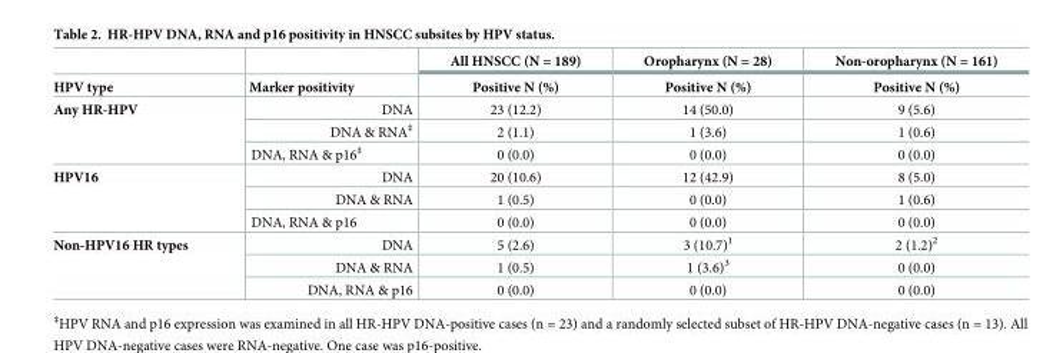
<table><thead><tr><td rowspan="2">HPV type</td><td rowspan="2">Marker positivity</td><td rowspan="2">All HNSCC (N = 189) Positive N (%)</td><td rowspan="2">Oropharynx (N = 28) Positive N (%)</td><td rowspan="2">Non-oropharynx (N = 161) Positive N (%)</td></tr><tr></tr></thead><tbody><tr><td rowspan="3">Any HR-HPV</td><td>DNA</td><td>23 (12.2)</td><td>14 (50.0)</td><td>9 (5.6)</td></tr><tr><td>DNA &amp; RNA<sup>‡</sup></td><td>2 (1.1)</td><td>1 (3.6)</td><td>1 (0.6)</td></tr><tr><td>DNA, RNA &amp; p16<sup>‡</sup></td><td>0 (0.0)</td><td>0 (0.0)</td><td>0 (0.0)</td></tr><tr><td rowspan="3">HPV16</td><td>DNA</td><td>20 (10.6)</td><td>12 (42.9)</td><td>8 (5.0)</td></tr><tr><td>DNA &amp; RNA</td><td>1 (0.5)</td><td>0 (0.0)</td><td>1 (0.6)</td></tr><tr><td>DNA, RNA &amp; p16</td><td>0 (0.0)</td><td>0 (0.0)</td><td>0 (0.0)</td></tr><tr><td rowspan="3">Non-HPV16 HR types</td><td>DNA</td><td>5 (2.6)</td><td>3 (10.7)<sup>1</sup></td><td>2 (1.2)<sup>2</sup></td></tr><tr><td>DNA &amp; RNA</td><td>1 (0.5)</td><td>1 (3.6)<sup>3</sup></td><td>0 (0.0)</td></tr><tr><td>DNA, RNA &amp; p16</td><td>0 (0.0)</td><td>0 (0.0)</td><td>0 (0.0)</td></tr></tbody></table>